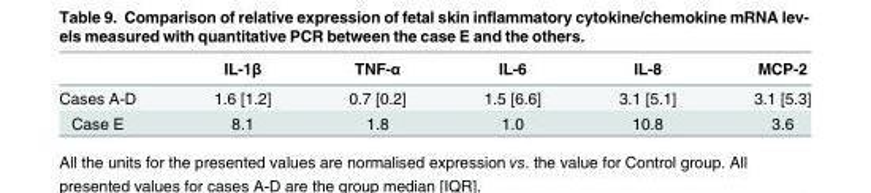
<table><thead><tr><td></td><td>IL-1β</td><td>TNF-α</td><td>IL-6</td><td>IL-8</td><td>MCP-2</td></tr></thead><tbody><tr><td>Cases A-D</td><td>1.6 [1.2]</td><td>0.7 [0.2]</td><td>1.5 [6.6]</td><td>3.1 [5.1]</td><td>3.1 [5.3]</td></tr><tr><td>Case E</td><td>8.1</td><td>1.8</td><td>1.0</td><td>10.8</td><td>3.6</td></tr></tbody></table>